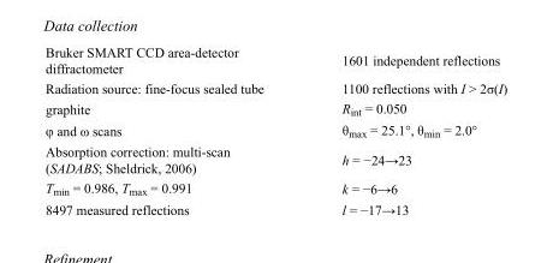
<table><tbody><tr><td>Bruker SMART CCD area-detector diffractometer</td><td>1601 independent reflections</td></tr><tr><td>Radiation source: fine-focus sealed tube</td><td>1100 reflections with I &gt; 2σ(I)</td></tr><tr><td>graphite</td><td>R<sub>int</sub> = 0.050</td></tr><tr><td>φ and ω scans</td><td>θ<sub>max</sub> = 25.1°, θ<sub>min</sub> = 2.0°</td></tr><tr><td>Absorption correction: multi-scan (SADABS; Sheldrick, 2006)</td><td>h = −24→23</td></tr><tr><td>T<sub>min</sub> = 0.986, T<sub>max</sub> = 0.991</td><td>k = −6→6</td></tr><tr><td>8497 measured reflections</td><td>l = −17→13</td></tr></tbody></table>